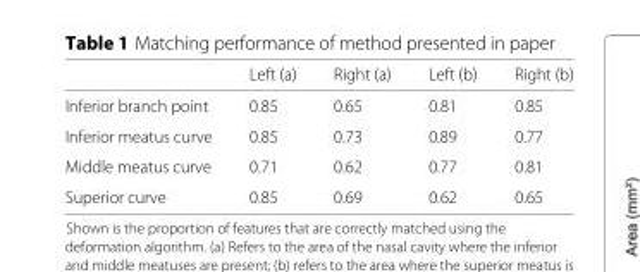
<table><thead><tr><td></td><td>Left (a)</td><td>Right (a)</td><td>Left (b)</td><td>Right (b)</td></tr></thead><tbody><tr><td>Inferior branch point</td><td>0.85</td><td>0.65</td><td>0.81</td><td>0.85</td></tr><tr><td>Inferior meatus curve</td><td>0.85</td><td>0.73</td><td>0.89</td><td>0.77</td></tr><tr><td>Middle meatus curve</td><td>0.71</td><td>0.62</td><td>0.77</td><td>0.81</td></tr><tr><td>Superior curve</td><td>0.85</td><td>0.69</td><td>0.62</td><td>0.65</td></tr></tbody></table>